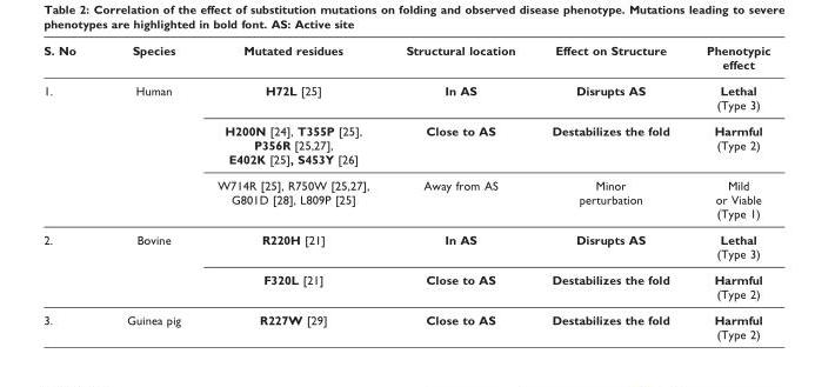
<table><thead><tr><td>S. No</td><td>Species</td><td>Mutated residues</td><td>Structural location</td><td>Effect on Structure</td><td>Phenotypic effect</td></tr></thead><tbody><tr><td rowspan="3">1.</td><td>Human</td><td>H72L [25]</td><td>In AS</td><td>Disrupts AS</td><td>Lethal (Type 3)</td></tr><tr><td></td><td>H200N [24], T355P [25], P356R [25,27], E402K [25], S453Y [26]</td><td>Close to AS</td><td>Destabilizes the fold</td><td>Harmful (Type 2)</td></tr><tr><td></td><td>W714R [25], R750W [25,27], G801D [28], L809P [25]</td><td>Away from AS</td><td>Minor perturbation</td><td>Mild or Viable (Type 1)</td></tr><tr><td rowspan="2">2.</td><td>Bovine</td><td>R220H [21]</td><td>In AS</td><td>Disrupts AS</td><td>Lethal (Type 3)</td></tr><tr><td></td><td>F320L [21]</td><td>Close to AS</td><td>Destabilizes the fold</td><td>Harmful (Type 2)</td></tr><tr><td>3.</td><td>Guinea pig</td><td>R227W [29]</td><td>Close to AS</td><td>Destabilizes the fold</td><td>Harmful (Type 2)</td></tr></tbody></table>